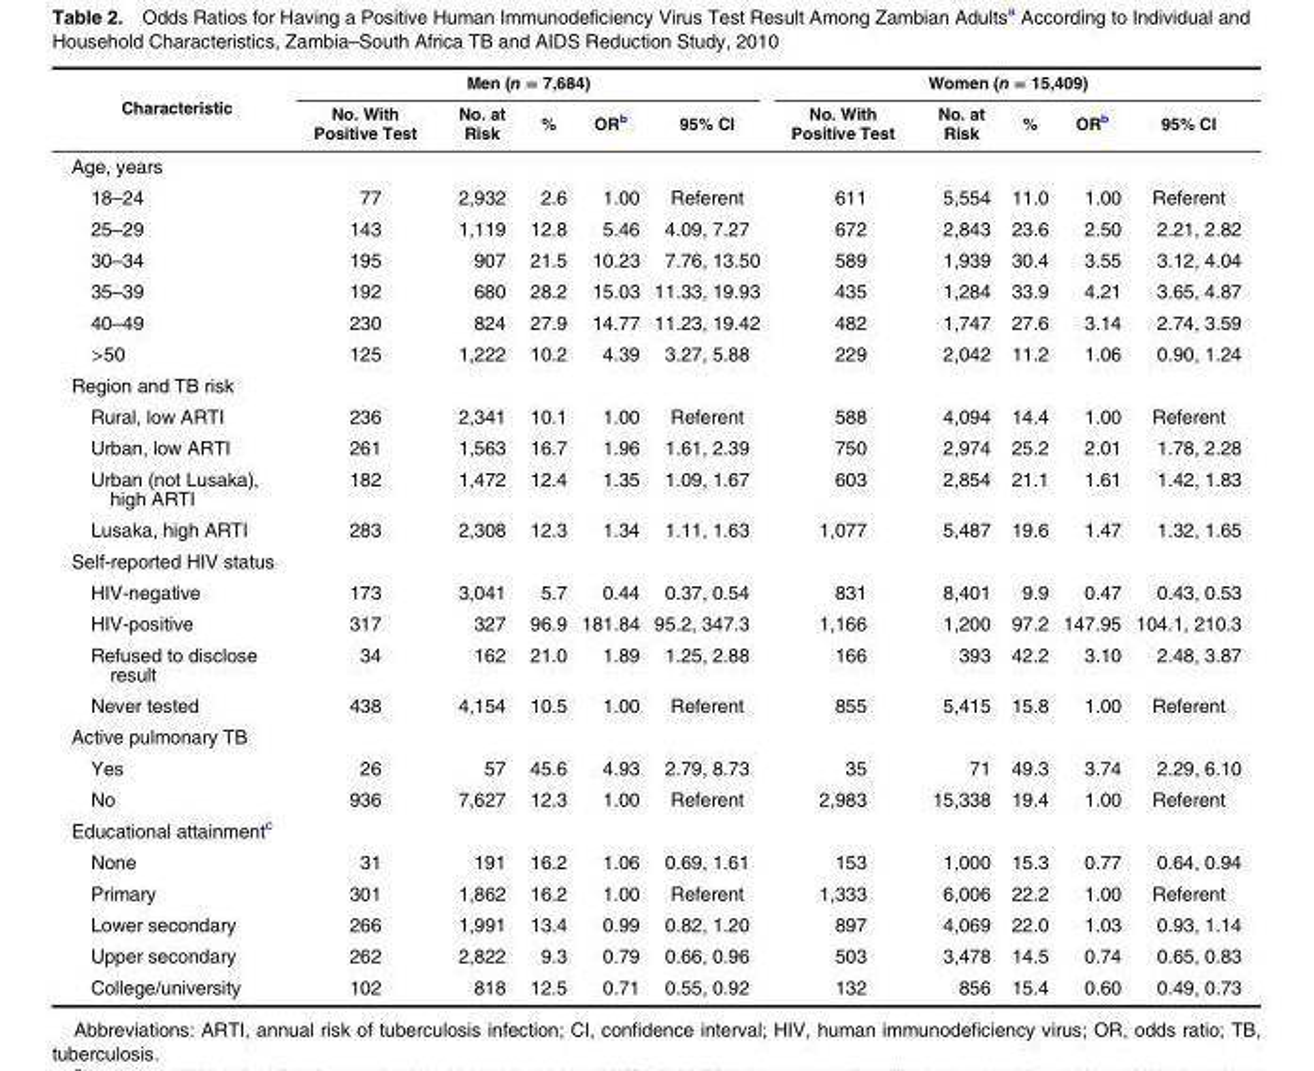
<table><thead><tr><td rowspan="2">Characteristic</td><td colspan="5">Men (n = 7,684)</td><td colspan="5">Women (n = 15,409)</td></tr><tr><td>No. With Positive Test</td><td>No. at Risk</td><td>%</td><td>OR<sup>b</sup></td><td>95% CI</td><td>No. With Positive Test</td><td>No. at Risk</td><td>%</td><td>OR<sup>b</sup></td><td>95% CI</td></tr></thead><tbody><tr><td colspan="11">Age, years</td></tr><tr><td>18–24</td><td>77</td><td>2,932</td><td>2.6</td><td>1.00</td><td>Referent</td><td>611</td><td>5,554</td><td>11.0</td><td>1.00</td><td>Referent</td></tr><tr><td>25–29</td><td>143</td><td>1,119</td><td>12.8</td><td>5.46</td><td>4.09, 7.27</td><td>672</td><td>2,843</td><td>23.6</td><td>2.50</td><td>2.21, 2.82</td></tr><tr><td>30–34</td><td>195</td><td>907</td><td>21.5</td><td>10.23</td><td>7.76, 13.50</td><td>589</td><td>1,939</td><td>30.4</td><td>3.55</td><td>3.12, 4.04</td></tr><tr><td>35–39</td><td>192</td><td>680</td><td>28.2</td><td>15.03</td><td>11.33, 19.93</td><td>435</td><td>1,284</td><td>33.9</td><td>4.21</td><td>3.65, 4.87</td></tr><tr><td>40–49</td><td>230</td><td>824</td><td>27.9</td><td>14.77</td><td>11.23, 19.42</td><td>482</td><td>1,747</td><td>27.6</td><td>3.14</td><td>2.74, 3.59</td></tr><tr><td>&gt;50</td><td>125</td><td>1,222</td><td>10.2</td><td>4.39</td><td>3.27, 5.88</td><td>229</td><td>2,042</td><td>11.2</td><td>1.06</td><td>0.90, 1.24</td></tr><tr><td colspan="11">Region and TB risk</td></tr><tr><td>Rural, low ARTI</td><td>236</td><td>2,341</td><td>10.1</td><td>1.00</td><td>Referent</td><td>588</td><td>4,094</td><td>14.4</td><td>1.00</td><td>Referent</td></tr><tr><td>Urban, low ARTI</td><td>261</td><td>1,563</td><td>16.7</td><td>1.96</td><td>1.61, 2.39</td><td>750</td><td>2,974</td><td>25.2</td><td>2.01</td><td>1.78, 2.28</td></tr><tr><td>Urban (not Lusaka), high ARTI</td><td>182</td><td>1,472</td><td>12.4</td><td>1.35</td><td>1.09, 1.67</td><td>603</td><td>2,854</td><td>21.1</td><td>1.61</td><td>1.42, 1.83</td></tr><tr><td>Lusaka, high ARTI</td><td>283</td><td>2,308</td><td>12.3</td><td>1.34</td><td>1.11, 1.63</td><td>1,077</td><td>5,487</td><td>19.6</td><td>1.47</td><td>1.32, 1.65</td></tr><tr><td colspan="11">Self-reported HIV status</td></tr><tr><td>HIV-negative</td><td>173</td><td>3,041</td><td>5.7</td><td>0.44</td><td>0.37, 0.54</td><td>831</td><td>8,401</td><td>9.9</td><td>0.47</td><td>0.43, 0.53</td></tr><tr><td>HIV-positive</td><td>317</td><td>327</td><td>96.9</td><td>181.84</td><td>95.2, 347.3</td><td>1,166</td><td>1,200</td><td>97.2</td><td>147.95</td><td>104.1, 210.3</td></tr><tr><td>Refused to disclose result</td><td>34</td><td>162</td><td>21.0</td><td>1.89</td><td>1.25, 2.88</td><td>166</td><td>393</td><td>42.2</td><td>3.10</td><td>2.48, 3.87</td></tr><tr><td>Never tested</td><td>438</td><td>4,154</td><td>10.5</td><td>1.00</td><td>Referent</td><td>855</td><td>5,415</td><td>15.8</td><td>1.00</td><td>Referent</td></tr><tr><td colspan="11">Active pulmonary TB</td></tr><tr><td>Yes</td><td>26</td><td>57</td><td>45.6</td><td>4.93</td><td>2.79, 8.73</td><td>35</td><td>71</td><td>49.3</td><td>3.74</td><td>2.29, 6.10</td></tr><tr><td>No</td><td>936</td><td>7,627</td><td>12.3</td><td>1.00</td><td>Referent</td><td>2,983</td><td>15,338</td><td>19.4</td><td>1.00</td><td>Referent</td></tr><tr><td colspan="11">Educational attainment<sup>c</sup></td></tr><tr><td>None</td><td>31</td><td>191</td><td>16.2</td><td>1.06</td><td>0.69, 1.61</td><td>153</td><td>1,000</td><td>15.3</td><td>0.77</td><td>0.64, 0.94</td></tr><tr><td>Primary</td><td>301</td><td>1,862</td><td>16.2</td><td>1.00</td><td>Referent</td><td>1,333</td><td>6,006</td><td>22.2</td><td>1.00</td><td>Referent</td></tr><tr><td>Lower secondary</td><td>266</td><td>1,991</td><td>13.4</td><td>0.99</td><td>0.82, 1.20</td><td>897</td><td>4,069</td><td>22.0</td><td>1.03</td><td>0.93, 1.14</td></tr><tr><td>Upper secondary</td><td>262</td><td>2,822</td><td>9.3</td><td>0.79</td><td>0.66, 0.96</td><td>503</td><td>3,478</td><td>14.5</td><td>0.74</td><td>0.65, 0.83</td></tr><tr><td>College/university</td><td>102</td><td>818</td><td>12.5</td><td>0.71</td><td>0.55, 0.92</td><td>132</td><td>856</td><td>15.4</td><td>0.60</td><td>0.49, 0.73</td></tr></tbody></table>